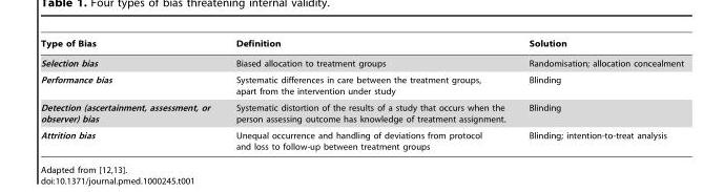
<table><thead><tr><td>Type of Bias</td><td>Definition</td><td>Solution</td></tr></thead><tbody><tr><td>Selection bias</td><td>Biased allocation to treatment groups</td><td>Randomisation; allocation concealment</td></tr><tr><td>Performance bias</td><td>Systematic differences in care between the treatment groups, apart from the intervention under study</td><td>Blinding</td></tr><tr><td>Detection (ascertainment, assessment, or observer) bias</td><td>Systematic distortion of the results of a study that occurs when the person assessing outcome has knowledge of treatment assignment.</td><td>Blinding</td></tr><tr><td>Attrition bias</td><td>Unequal occurrence and handling of deviations from protocol and loss to follow-up between treatment groups</td><td>Blinding; intention-to-treat analysis</td></tr></tbody></table>